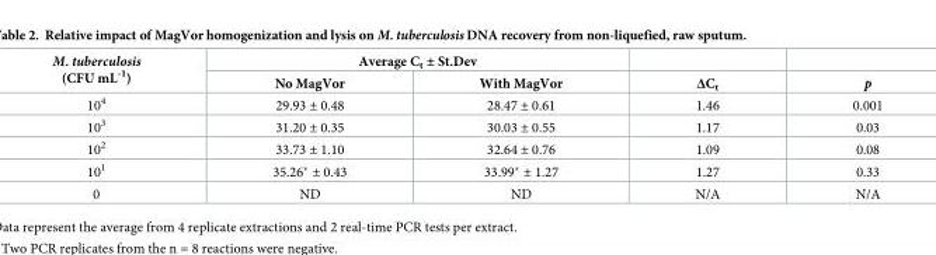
<table><thead><tr><td rowspan="2">M. tuberculosis (CFU mL<sup>-1</sup>)</td><td colspan="2">Average C<sub>t</sub> ± St.Dev</td><td rowspan="2">ΔC<sub>t</sub></td><td rowspan="2">p</td></tr><tr><td>No MagVor</td><td>With MagVor</td></tr></thead><tbody><tr><td>10<sup>4</sup></td><td>29.93 ± 0.48</td><td>28.47 ± 0.61</td><td>1.46</td><td>0.001</td></tr><tr><td>10<sup>3</sup></td><td>31.20 ± 0.35</td><td>30.03 ± 0.55</td><td>1.17</td><td>0.03</td></tr><tr><td>10<sup>2</sup></td><td>33.73 ± 1.10</td><td>32.64 ± 0.76</td><td>1.09</td><td>0.08</td></tr><tr><td>10<sup>1</sup></td><td>35.26* ± 0.43</td><td>33.99* ± 1.27</td><td>1.27</td><td>0.33</td></tr><tr><td>0</td><td>ND</td><td>ND</td><td>N/A</td><td>N/A</td></tr></tbody></table>